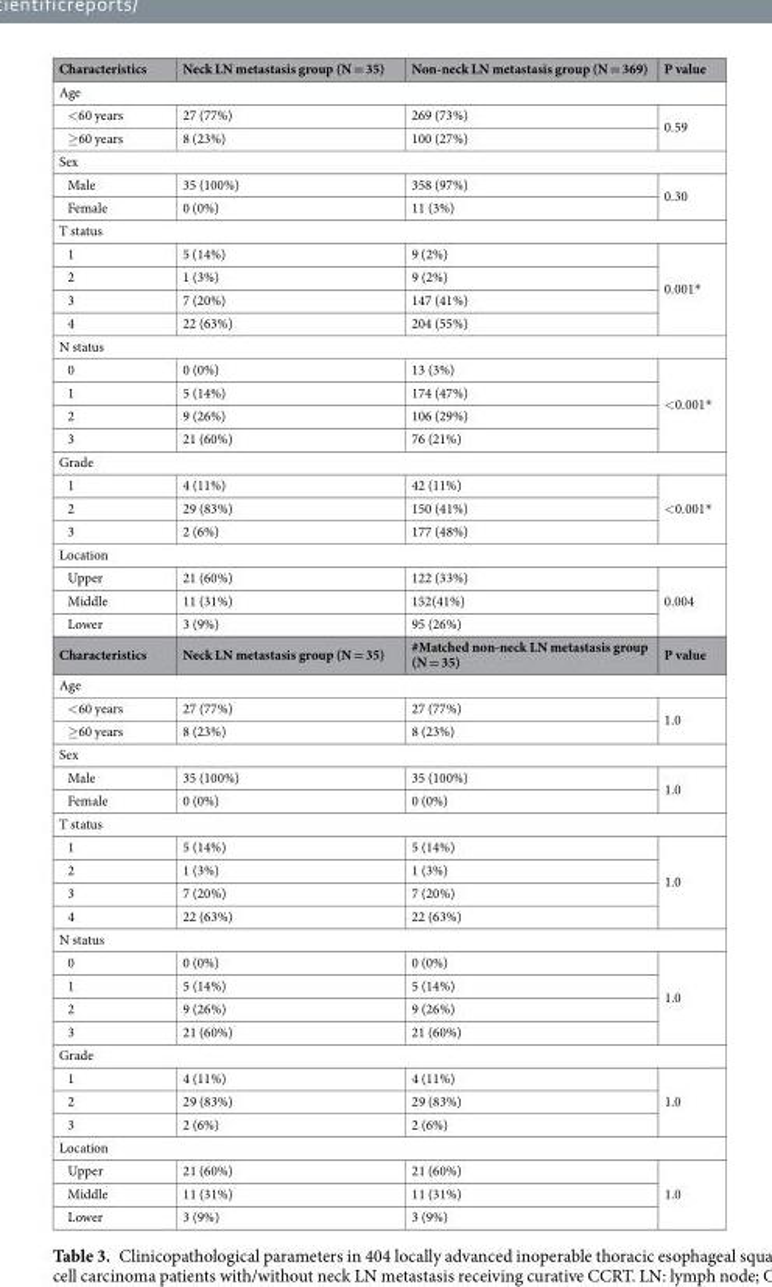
<table><thead><tr><td>Characteristics</td><td>Neck LN metastasis group (N = 35)</td><td>Non-neck LN metastasis group (N = 369)</td><td>P value</td></tr></thead><tbody><tr><td colspan="4">Age</td></tr><tr><td>&lt;60 years</td><td>27 (77%)</td><td>269 (73%)</td><td rowspan="2">0.59</td></tr><tr><td>≥60 years</td><td>8 (23%)</td><td>100 (27%)</td></tr><tr><td colspan="4">Sex</td></tr><tr><td>Male</td><td>35 (100%)</td><td>358 (97%)</td><td rowspan="2">0.30</td></tr><tr><td>Female</td><td>0 (0%)</td><td>11 (3%)</td></tr><tr><td colspan="4">T status</td></tr><tr><td>1</td><td>5 (14%)</td><td>9 (2%)</td><td rowspan="4">0.001*</td></tr><tr><td>2</td><td>1 (3%)</td><td>9 (2%)</td></tr><tr><td>3</td><td>7 (20%)</td><td>147 (41%)</td></tr><tr><td>4</td><td>22 (63%)</td><td>204 (55%)</td></tr><tr><td colspan="4">N status</td></tr><tr><td>0</td><td>0 (0%)</td><td>13 (3%)</td><td rowspan="4">&lt;0.001*</td></tr><tr><td>1</td><td>5 (14%)</td><td>174 (47%)</td></tr><tr><td>2</td><td>9 (26%)</td><td>106 (29%)</td></tr><tr><td>3</td><td>21 (60%)</td><td>76 (21%)</td></tr><tr><td colspan="4">Grade</td></tr><tr><td>1</td><td>4 (11%)</td><td>42 (11%)</td><td rowspan="3">&lt;0.001*</td></tr><tr><td>2</td><td>29 (83%)</td><td>150 (41%)</td></tr><tr><td>3</td><td>2 (6%)</td><td>177 (48%)</td></tr><tr><td colspan="4">Location</td></tr><tr><td>Upper</td><td>21 (60%)</td><td>122 (33%)</td><td rowspan="3">0.004</td></tr><tr><td>Middle</td><td>11 (31%)</td><td>152(41%)</td></tr><tr><td>Lower</td><td>3 (9%)</td><td>95 (26%)</td></tr><tr><td>Characteristics</td><td>Neck LN metastasis group (N = 35)</td><td>#Matched non-neck LN metastasis group (N = 35)</td><td>P value</td></tr><tr><td colspan="4">Age</td></tr><tr><td>&lt;60 years</td><td>27 (77%)</td><td>27 (77%)</td><td rowspan="2">1.0</td></tr><tr><td>≥60 years</td><td>8 (23%)</td><td>8 (23%)</td></tr><tr><td colspan="4">Sex</td></tr><tr><td>Male</td><td>35 (100%)</td><td>35 (100%)</td><td rowspan="2">1.0</td></tr><tr><td>Female</td><td>0 (0%)</td><td>0 (0%)</td></tr><tr><td colspan="4">T status</td></tr><tr><td>1</td><td>5 (14%)</td><td>5 (14%)</td><td rowspan="4">1.0</td></tr><tr><td>2</td><td>1 (3%)</td><td>1 (3%)</td></tr><tr><td>3</td><td>7 (20%)</td><td>7 (20%)</td></tr><tr><td>4</td><td>22 (63%)</td><td>22 (63%)</td></tr><tr><td colspan="4">N status</td></tr><tr><td>0</td><td>0 (0%)</td><td>0 (0%)</td><td rowspan="4">1.0</td></tr><tr><td>1</td><td>5 (14%)</td><td>5 (14%)</td></tr><tr><td>2</td><td>9 (26%)</td><td>9 (26%)</td></tr><tr><td>3</td><td>21 (60%)</td><td>21 (60%)</td></tr><tr><td colspan="4">Grade</td></tr><tr><td>1</td><td>4 (11%)</td><td>4 (11%)</td><td rowspan="3">1.0</td></tr><tr><td>2</td><td>29 (83%)</td><td>29 (83%)</td></tr><tr><td>3</td><td>2 (6%)</td><td>2 (6%)</td></tr><tr><td colspan="4">Location</td></tr><tr><td>Upper</td><td>21 (60%)</td><td>21 (60%)</td><td rowspan="3">1.0</td></tr><tr><td>Middle</td><td>11 (31%)</td><td>11 (31%)</td></tr><tr><td>Lower</td><td>3 (9%)</td><td>3 (9%)</td></tr></tbody></table>